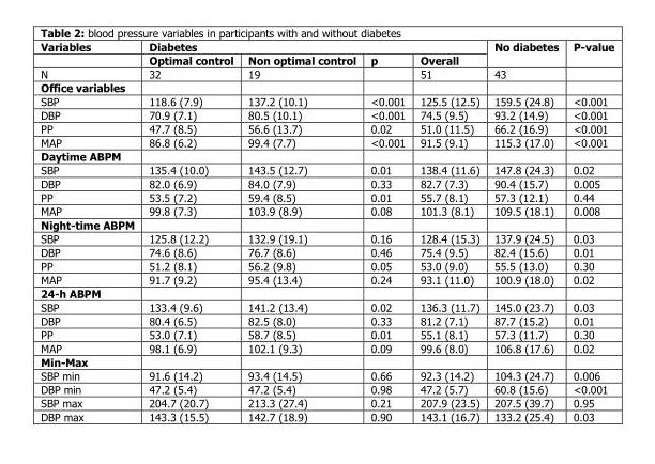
<table><thead><tr><td rowspan="2">Variables</td><td colspan="4">Diabetes</td><td rowspan="2">No diabetes</td><td rowspan="2">P-value</td></tr><tr><td>Optimal control</td><td>Non optimal control</td><td>p</td><td>Overall</td></tr></thead><tbody><tr><td>N</td><td>32</td><td>19</td><td></td><td>51</td><td>43</td><td></td></tr><tr><td colspan="7">Office variables</td></tr><tr><td>SBP</td><td>118.6 (7.9)</td><td>137.2 (10.1)</td><td>&lt;0.001</td><td>125.5 (12.5)</td><td>159.5 (24.8)</td><td>&lt;0.001</td></tr><tr><td>DBP</td><td>70.9 (7.1)</td><td>80.5 (10.1)</td><td>&lt;0.001</td><td>74.5 (9.5)</td><td>93.2 (14.9)</td><td>&lt;0.001</td></tr><tr><td>PP</td><td>47.7 (8.5)</td><td>56.6 (13.7)</td><td>0.02</td><td>51.0 (11.5)</td><td>66.2 (16.9)</td><td>&lt;0.001</td></tr><tr><td>MAP</td><td>86.8 (6.2)</td><td>99.4 (7.7)</td><td>&lt;0.001</td><td>91.5 (9.1)</td><td>115.3 (17.0)</td><td>&lt;0.001</td></tr><tr><td colspan="7">Daytime ABPM</td></tr><tr><td>SBP</td><td>135.4 (10.0)</td><td>143.5 (12.7)</td><td>0.01</td><td>138.4 (11.6)</td><td>147.8 (24.3)</td><td>0.02</td></tr><tr><td>DBP</td><td>82.0 (6.9)</td><td>84.0 (7.9)</td><td>0.33</td><td>82.7 (7.3)</td><td>90.4 (15.7)</td><td>0.005</td></tr><tr><td>PP</td><td>53.5 (7.2)</td><td>59.4 (8.5)</td><td>0.01</td><td>55.7 (8.1)</td><td>57.3 (12.1)</td><td>0.44</td></tr><tr><td>MAP</td><td>99.8 (7.3)</td><td>103.9 (8.9)</td><td>0.08</td><td>101.3 (8.1)</td><td>109.5 (18.1)</td><td>0.008</td></tr><tr><td colspan="7">Night-time ABPM</td></tr><tr><td>SBP</td><td>125.8 (12.2)</td><td>132.9 (19.1)</td><td>0.16</td><td>128.4 (15.3)</td><td>137.9 (24.5)</td><td>0.03</td></tr><tr><td>DBP</td><td>74.6 (8.6)</td><td>76.7 (8.6)</td><td>0.46</td><td>75.4 (9.5)</td><td>82.4 (15.6)</td><td>0.01</td></tr><tr><td>PP</td><td>51.2 (8.1)</td><td>56.2 (9.8)</td><td>0.05</td><td>53.0 (9.0)</td><td>55.5 (13.0)</td><td>0.30</td></tr><tr><td>MAP</td><td>91.7 (9.2)</td><td>95.4 (13.4)</td><td>0.24</td><td>93.1 (11.0)</td><td>100.9 (18.0)</td><td>0.02</td></tr><tr><td colspan="7">24-h ABPM</td></tr><tr><td>SBP</td><td>133.4 (9.6)</td><td>141.2 (13.4)</td><td>0.02</td><td>136.3 (11.7)</td><td>145.0 (23.7)</td><td>0.03</td></tr><tr><td>DBP</td><td>80.4 (6.5)</td><td>82.5 (8.0)</td><td>0.33</td><td>81.2 (7.1)</td><td>87.7 (15.2)</td><td>0.01</td></tr><tr><td>PP</td><td>53.0 (7.1)</td><td>58.7 (8.5)</td><td>0.01</td><td>55.1 (8.1)</td><td>57.3 (11.7)</td><td>0.30</td></tr><tr><td>MAP</td><td>98.1 (6.9)</td><td>102.1 (9.3)</td><td>0.09</td><td>99.6 (8.0)</td><td>106.8 (17.6)</td><td>0.02</td></tr><tr><td colspan="7">Min-Max</td></tr><tr><td>SBP min</td><td>91.6 (14.2)</td><td>93.4 (14.5)</td><td>0.66</td><td>92.3 (14.2)</td><td>104.3 (24.7)</td><td>0.006</td></tr><tr><td>DBP min</td><td>47.2 (5.4)</td><td>47.2 (5.4)</td><td>0.98</td><td>47.2 (5.7)</td><td>60.8 (15.6)</td><td>&lt;0.001</td></tr><tr><td>SBP max</td><td>204.7 (20.7)</td><td>213.3 (27.4)</td><td>0.21</td><td>207.9 (23.5)</td><td>207.5 (39.7)</td><td>0.95</td></tr><tr><td>DBP max</td><td>143.3 (15.5)</td><td>142.7 (18.9)</td><td>0.90</td><td>143.1 (16.7)</td><td>133.2 (25.4)</td><td>0.03</td></tr></tbody></table>